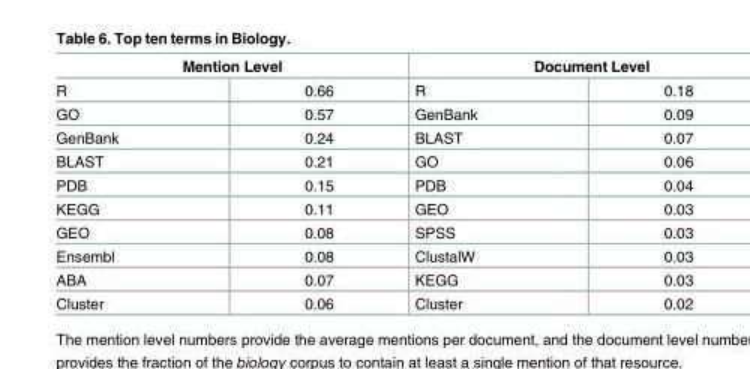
<table><thead><tr><td colspan="2">Mention Level</td><td colspan="2">Document Level</td></tr><tr><td>R</td><td>0.66</td><td>R</td><td>0.18</td></tr></thead><tbody><tr><td>GO</td><td>0.57</td><td>GenBank</td><td>0.09</td></tr><tr><td>GenBank</td><td>0.24</td><td>BLAST</td><td>0.07</td></tr><tr><td>BLAST</td><td>0.21</td><td>GO</td><td>0.06</td></tr><tr><td>PDB</td><td>0.15</td><td>PDB</td><td>0.04</td></tr><tr><td>KEGG</td><td>0.11</td><td>GEO</td><td>0.03</td></tr><tr><td>GEO</td><td>0.08</td><td>SPSS</td><td>0.03</td></tr><tr><td>Ensembl</td><td>0.08</td><td>ClustalW</td><td>0.03</td></tr><tr><td>ABA</td><td>0.07</td><td>KEGG</td><td>0.03</td></tr><tr><td>Cluster</td><td>0.06</td><td>Cluster</td><td>0.02</td></tr></tbody></table>